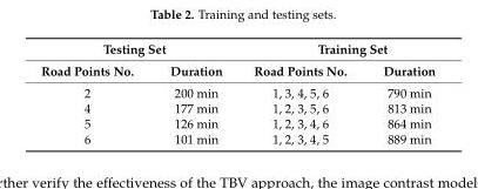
<table><thead><tr><td colspan="2">Testing Set</td><td colspan="2">Training Set</td></tr><tr><td>Road Points No.</td><td>Duration</td><td>Road Points No.</td><td>Duration</td></tr></thead><tbody><tr><td>2</td><td>200 min</td><td>1, 3, 4, 5, 6</td><td>790 min</td></tr><tr><td>4</td><td>177 min</td><td>1, 2, 3, 5, 6</td><td>813 min</td></tr><tr><td>5</td><td>126 min</td><td>1, 2, 3, 4, 6</td><td>864 min</td></tr><tr><td>6</td><td>101 min</td><td>1, 2, 3, 4, 5</td><td>889 min</td></tr></tbody></table>